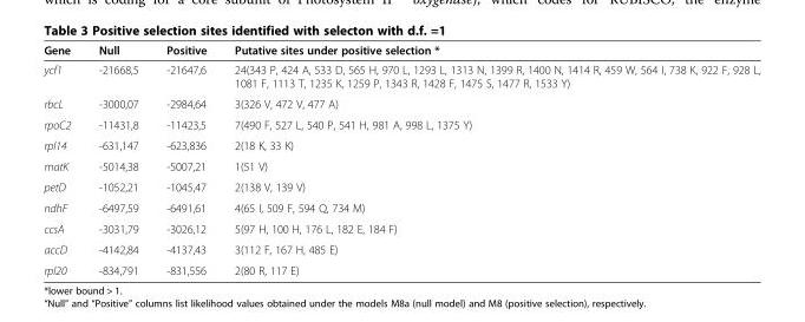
<table><thead><tr><td>Gene</td><td>Null</td><td>Positive</td><td>Putative sites under positive selection *</td></tr></thead><tbody><tr><td>ycf1</td><td>-21668,5</td><td>-21647,6</td><td>24(343 P, 424 A, 533 D, 565 H, 970 L, 1293 L, 1313 N, 1399 R, 1400 N, 1414 R, 459 W, 564 I, 738 K, 922 F, 928 L, 1081 F, 1113 T, 1235 K, 1259 P, 1343 R, 1428 F, 1475 S, 1477 R, 1533 Y)</td></tr><tr><td>rbcL</td><td>-3000,07</td><td>-2984,64</td><td>3(326 V, 472 V, 477 A)</td></tr><tr><td>rpoC2</td><td>-11431,8</td><td>-11423,5</td><td>7(490 F, 527 L, 540 P, 541 H, 981 A, 998 L, 1375 Y)</td></tr><tr><td>rpl14</td><td>-631,147</td><td>-623,836</td><td>2(18 K, 33 K)</td></tr><tr><td>matK</td><td>-5014,38</td><td>-5007,21</td><td>1(51 V)</td></tr><tr><td>petD</td><td>-1052,21</td><td>-1045,47</td><td>2(138 V, 139 V)</td></tr><tr><td>ndhF</td><td>-6497,59</td><td>-6491,61</td><td>4(65 I, 509 F, 594 Q, 734 M)</td></tr><tr><td>ccsA</td><td>-3031,79</td><td>-3026,12</td><td>5(97 H, 100 H, 176 L, 182 E, 184 F)</td></tr><tr><td>accD</td><td>-4142,84</td><td>-4137,43</td><td>3(112 F, 167 H, 485 E)</td></tr><tr><td>rpl20</td><td>-834,791</td><td>-831,556</td><td>2(80 R, 117 E)</td></tr></tbody></table>